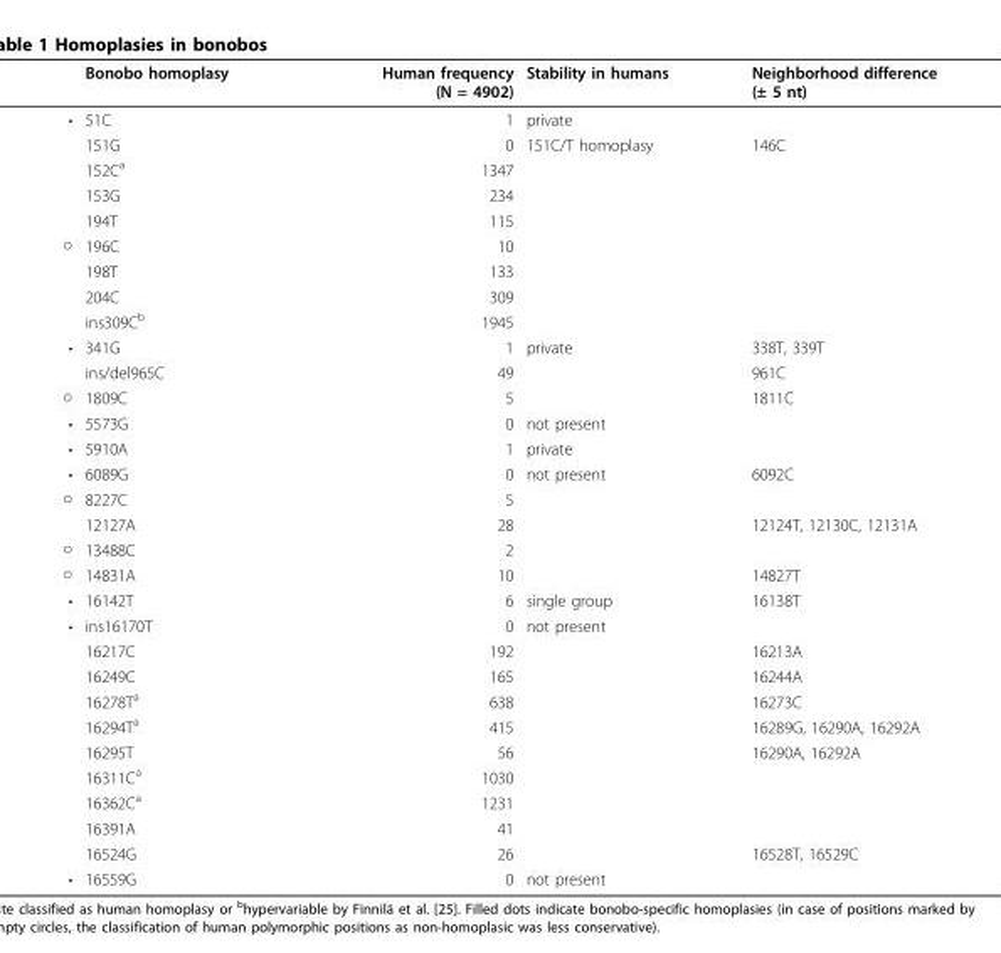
<table><thead><tr><td></td><td>Bonobo homoplasy</td><td>Human frequency (N = 4902)</td><td>Stability in humans</td><td>Neighborhood difference (± 5 nt)</td></tr></thead><tbody><tr><td rowspan="5">•</td><td>51C</td><td>1</td><td>private</td><td></td></tr><tr><td>151G</td><td>0</td><td>151C/T homoplasy</td><td>146C</td></tr><tr><td>152C<sup>a</sup></td><td>1347</td><td></td><td></td></tr><tr><td>153G</td><td>234</td><td></td><td></td></tr><tr><td>194T</td><td>115</td><td></td><td></td></tr><tr><td rowspan="4">○</td><td>196C</td><td>10</td><td></td><td></td></tr><tr><td>198T</td><td>133</td><td></td><td></td></tr><tr><td>204C</td><td>309</td><td></td><td></td></tr><tr><td>ins309C<sup>b</sup></td><td>1945</td><td></td><td></td></tr><tr><td rowspan="2">•</td><td>341G</td><td>1</td><td>private</td><td>338T, 339T</td></tr><tr><td>ins/del965C</td><td>49</td><td></td><td>961C</td></tr><tr><td>○</td><td>1809C</td><td>5</td><td></td><td>1811C</td></tr><tr><td>•</td><td>5573G</td><td>0</td><td>not present</td><td></td></tr><tr><td>•</td><td>5910A</td><td>1</td><td>private</td><td></td></tr><tr><td>•</td><td>6089G</td><td>0</td><td>not present</td><td>6092C</td></tr><tr><td rowspan="2">○</td><td>8227C</td><td>5</td><td></td><td></td></tr><tr><td>12127A</td><td>28</td><td></td><td>12124T, 12130C, 12131A</td></tr><tr><td>○</td><td>13488C</td><td>2</td><td></td><td></td></tr><tr><td>○</td><td>14831A</td><td>10</td><td></td><td>14827T</td></tr><tr><td>•</td><td>16142T</td><td>6</td><td>single group</td><td>16138T</td></tr><tr><td rowspan="10">•</td><td>ins16170T</td><td>0</td><td>not present</td><td></td></tr><tr><td>16217C</td><td>192</td><td></td><td>16213A</td></tr><tr><td>16249C</td><td>165</td><td></td><td>16244A</td></tr><tr><td>16278T<sup>a</sup></td><td>638</td><td></td><td>16273C</td></tr><tr><td>16294T<sup>a</sup></td><td>415</td><td></td><td>16289G, 16290A, 16292A</td></tr><tr><td>16295T</td><td>56</td><td></td><td>16290A, 16292A</td></tr><tr><td>16311C<sup>a</sup></td><td>1030</td><td></td><td></td></tr><tr><td>16362C<sup>a</sup></td><td>1231</td><td></td><td></td></tr><tr><td>16391A</td><td>41</td><td></td><td></td></tr><tr><td>16524G</td><td>26</td><td></td><td>16528T, 16529C</td></tr><tr><td>•</td><td>16559G</td><td>0</td><td>not present</td><td></td></tr></tbody></table>